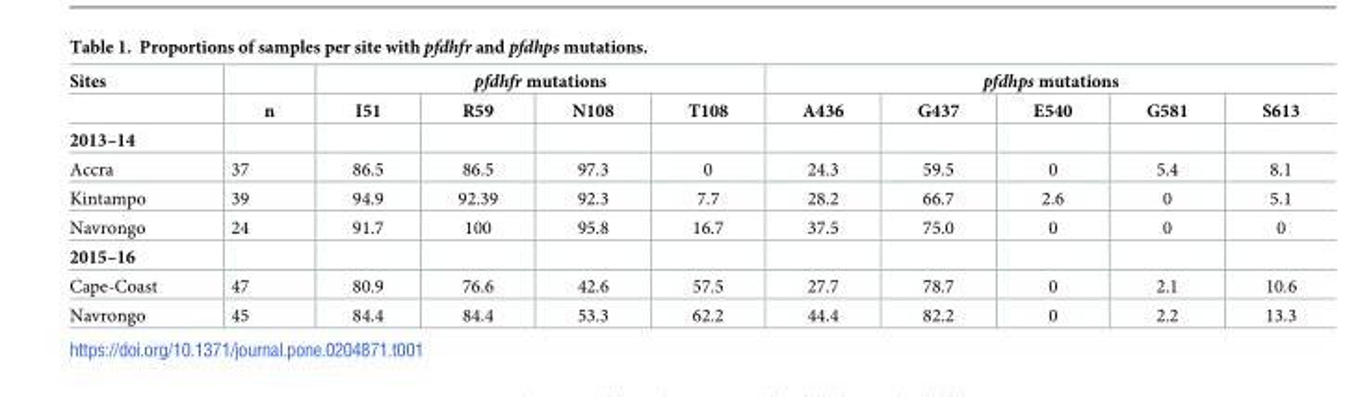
<table><thead><tr><td rowspan="2">Sites</td><td rowspan="2">n</td><td colspan="4">pfdhfr mutations</td><td colspan="5">pfdhps mutations</td></tr><tr><td>I51</td><td>R59</td><td>N108</td><td>T108</td><td>A436</td><td>G437</td><td>E540</td><td>G581</td><td>S613</td></tr></thead><tbody><tr><td colspan="11">2013–14</td></tr><tr><td>Accra</td><td>37</td><td>86.5</td><td>86.5</td><td>97.3</td><td>0</td><td>24.3</td><td>59.5</td><td>0</td><td>5.4</td><td>8.1</td></tr><tr><td>Kintampo</td><td>39</td><td>94.9</td><td>92.39</td><td>92.3</td><td>7.7</td><td>28.2</td><td>66.7</td><td>2.6</td><td>0</td><td>5.1</td></tr><tr><td>Navrongo</td><td>24</td><td>91.7</td><td>100</td><td>95.8</td><td>16.7</td><td>37.5</td><td>75.0</td><td>0</td><td>0</td><td>0</td></tr><tr><td colspan="11">2015–16</td></tr><tr><td>Cape-Coast</td><td>47</td><td>80.9</td><td>76.6</td><td>42.6</td><td>57.5</td><td>27.7</td><td>78.7</td><td>0</td><td>2.1</td><td>10.6</td></tr><tr><td>Navrongo</td><td>45</td><td>84.4</td><td>84.4</td><td>53.3</td><td>62.2</td><td>44.4</td><td>82.2</td><td>0</td><td>2.2</td><td>13.3</td></tr></tbody></table>